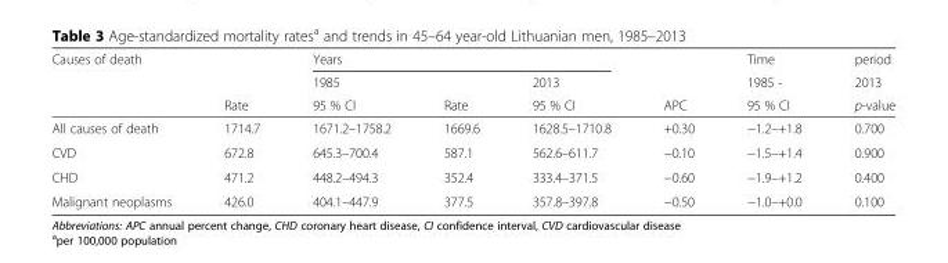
<table><thead><tr><td rowspan="3">Causes of death</td><td rowspan="3">Rate</td><td colspan="3">Years</td><td rowspan="3">APC</td><td rowspan="3">Time 1985 - 95 % CI</td><td rowspan="3">period 2013 p-value</td></tr><tr><td rowspan="2">1985 95 % CI</td><td rowspan="2">Rate</td><td rowspan="2">2013 95 % CI</td></tr><tr></tr></thead><tbody><tr><td>All causes of death</td><td>1714.7</td><td>1671.2–1758.2</td><td>1669.6</td><td>1628.5–1710.8</td><td>+0.30</td><td>−1.2–+1.8</td><td>0.700</td></tr><tr><td>CVD</td><td>672.8</td><td>645.3–700.4</td><td>587.1</td><td>562.6–611.7</td><td>−0.10</td><td>−1.5–+1.4</td><td>0.900</td></tr><tr><td>CHD</td><td>471.2</td><td>448.2–494.3</td><td>352.4</td><td>333.4–371.5</td><td>−0.60</td><td>−1.9–+1.2</td><td>0.400</td></tr><tr><td>Malignant neoplasms</td><td>426.0</td><td>404.1–447.9</td><td>377.5</td><td>357.8–397.8</td><td>−0.50</td><td>−1.0–+0.0</td><td>0.100</td></tr></tbody></table>